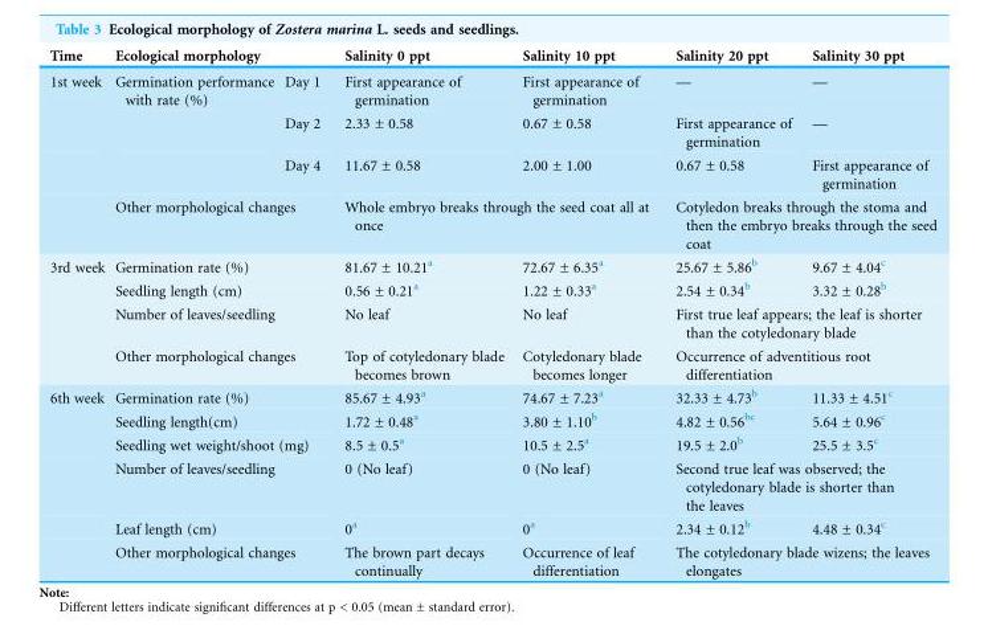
<table><thead><tr><td rowspan="2">Time 1st week</td><td colspan="2">Ecological morphology</td><td rowspan="2">Salinity 0 ppt First appearance of germination</td><td rowspan="2">Salinity 10 ppt First appearance of germination</td><td rowspan="2">Salinity 20 ppt —</td><td rowspan="2">Salinity 30 ppt —</td></tr><tr><td>Germination performance with rate (%)</td><td>Day 1</td></tr></thead><tbody><tr><td></td><td></td><td>Day 2</td><td>2.33 ± 0.58</td><td>0.67 ± 0.58</td><td>First appearance of germination</td><td>—</td></tr><tr><td></td><td></td><td>Day 4</td><td>11.67 ± 0.58</td><td>2.00 ± 1.00</td><td>0.67 ± 0.58</td><td>First appearance of germination</td></tr><tr><td></td><td colspan="2">Other morphological changes</td><td colspan="2">Whole embryo breaks through the seed coat all at once</td><td colspan="2">Cotyledon breaks through the stoma and then the embryo breaks through the seed coat</td></tr><tr><td rowspan="4">3rd week</td><td colspan="2">Germination rate (%)</td><td>81.67 ± 10.21<sup>a</sup></td><td>72.67 ± 6.35<sup>a</sup></td><td>25.67 ± 5.86<sup>b</sup></td><td>9.67 ± 4.04<sup>c</sup></td></tr><tr><td colspan="2">Seedling length (cm)</td><td>0.56 ± 0.21<sup>a</sup></td><td>1.22 ± 0.33<sup>a</sup></td><td>2.54 ± 0.34<sup>b</sup></td><td>3.32 ± 0.28<sup>b</sup></td></tr><tr><td colspan="2">Number of leaves/seedling</td><td>No leaf</td><td>No leaf</td><td colspan="2">First true leaf appears; the leaf is shorter than the cotyledonary blade</td></tr><tr><td colspan="2">Other morphological changes</td><td>Top of cotyledonary blade becomes brown</td><td>Cotyledonary blade becomes longer</td><td colspan="2">Occurrence of adventitious root differentiation</td></tr><tr><td rowspan="6">6th week</td><td colspan="2">Germination rate (%)</td><td>85.67 ± 4.93<sup>a</sup></td><td>74.67 ± 7.23<sup>a</sup></td><td>32.33 ± 4.73<sup>b</sup></td><td>11.33 ± 4.51<sup>c</sup></td></tr><tr><td colspan="2">Seedling length(cm)</td><td>1.72 ± 0.48<sup>a</sup></td><td>3.80 ± 1.10<sup>b</sup></td><td>4.82 ± 0.56<sup>bc</sup></td><td>5.64 ± 0.96<sup>c</sup></td></tr><tr><td colspan="2">Seedling wet weight/shoot (mg)</td><td>8.5 ± 0.5<sup>a</sup></td><td>10.5 ± 2.5<sup>a</sup></td><td>19.5 ± 2.0<sup>b</sup></td><td>25.5 ± 3.5<sup>c</sup></td></tr><tr><td colspan="2">Number of leaves/seedling</td><td>0 (No leaf)</td><td>0 (No leaf)</td><td colspan="2">Second true leaf was observed; the cotyledonary blade is shorter than the leaves</td></tr><tr><td colspan="2">Leaf length (cm)</td><td>0<sup>a</sup></td><td>0<sup>a</sup></td><td>2.34 ± 0.12<sup>b</sup></td><td>4.48 ± 0.34<sup>c</sup></td></tr><tr><td colspan="2">Other morphological changes</td><td>The brown part decays continually</td><td>Occurrence of leaf differentiation</td><td colspan="2">The cotyledonary blade wizens; the leaves elongates</td></tr></tbody></table>